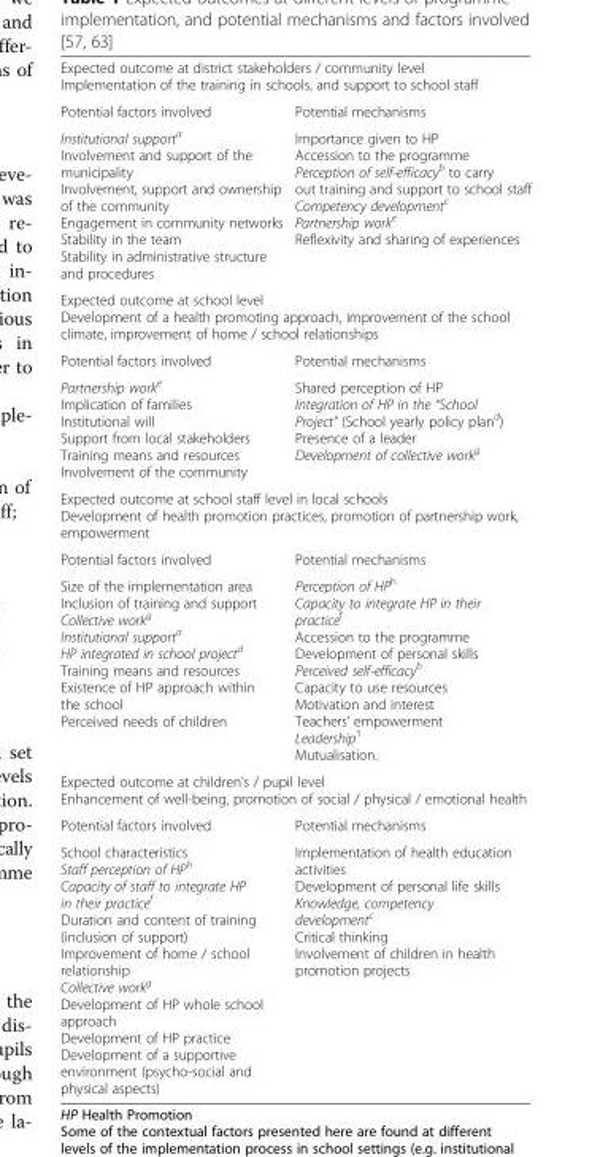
<table><tbody><tr><td colspan="2">Expected outcome at district stakeholders / community level Implementation of the training in schools, and support to school staff</td></tr><tr><td>Potential factors involved</td><td>Potential mechanisms</td></tr><tr><td>Institutional support<sup>a</sup> Involvement and support of the municipality Involvement, support and ownership of the community Engagement in community networks Stability in the team Stability in administrative structure and procedures</td><td>Importance given to HP Accession to the programme Perception of self-efficacy<sup>b</sup> to carry out training and support to school staff Competency development<sup>c</sup> Partnership work<sup>e</sup> Reflexivity and sharing of experiences</td></tr><tr><td colspan="2">Expected outcome at school level Development of a health promoting approach, improvement of the school climate, improvement of home / school relationships</td></tr><tr><td>Potential factors involved</td><td>Potential mechanisms</td></tr><tr><td>Partnership work<sup>e</sup> Implication of families Institutional will Support from local stakeholders Training means and resources Involvement of the community</td><td>Shared perception of HP Integration of HP in the “School Project” (School yearly policy plan<sup>d</sup>) Presence of a leader Development of collective work<sup>g</sup></td></tr><tr><td colspan="2">Expected outcome at school staff level in local schools Development of health promotion practices, promotion of partnership work, empowerment</td></tr><tr><td>Potential factors involved</td><td>Potential mechanisms</td></tr><tr><td>Size of the implementation area Inclusion of training and support Collective work<sup>g</sup> Institutional support<sup>a</sup> HP integrated in school project<sup>d</sup> Training means and resources Existence of HP approach within the school Perceived needs of children</td><td>Perception of HP<sup>h</sup> Capacity to integrate HP in their practice<sup>f</sup> Accession to the programme Development of personal skills Perceived self-efficacy<sup>b</sup> Capacity to use resources Motivation and interest Teachers’ empowerment Leadership<sup>1</sup> Mutualisation.</td></tr><tr><td colspan="2">Expected outcome at children’s / pupil level Enhancement of well-being, promotion of social / physical / emotional health</td></tr><tr><td>Potential factors involved</td><td>Potential mechanisms</td></tr><tr><td>School characteristics Staff perception of HP<sup>h</sup> Capacity of staff to integrate HP in their practice<sup>f</sup> Duration and content of training (inclusion of support) Improvement of home / school relationship Collective work<sup>g</sup> Development of HP whole school approach Development of HP practice Development of a supportive environment (psycho-social and physical aspects)</td><td>Implementation of health education activities Development of personal life skills Knowledge, competency development<sup>c</sup> Critical thinking Involvement of children in health promotion projects</td></tr></tbody></table>